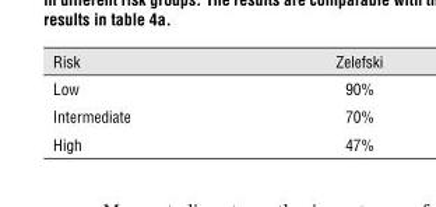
<table><thead><tr><td>Risk</td><td>Zelefski</td></tr></thead><tbody><tr><td>Low</td><td>90%</td></tr><tr><td>Intermediate</td><td>70%</td></tr><tr><td>High</td><td>47%</td></tr></tbody></table>